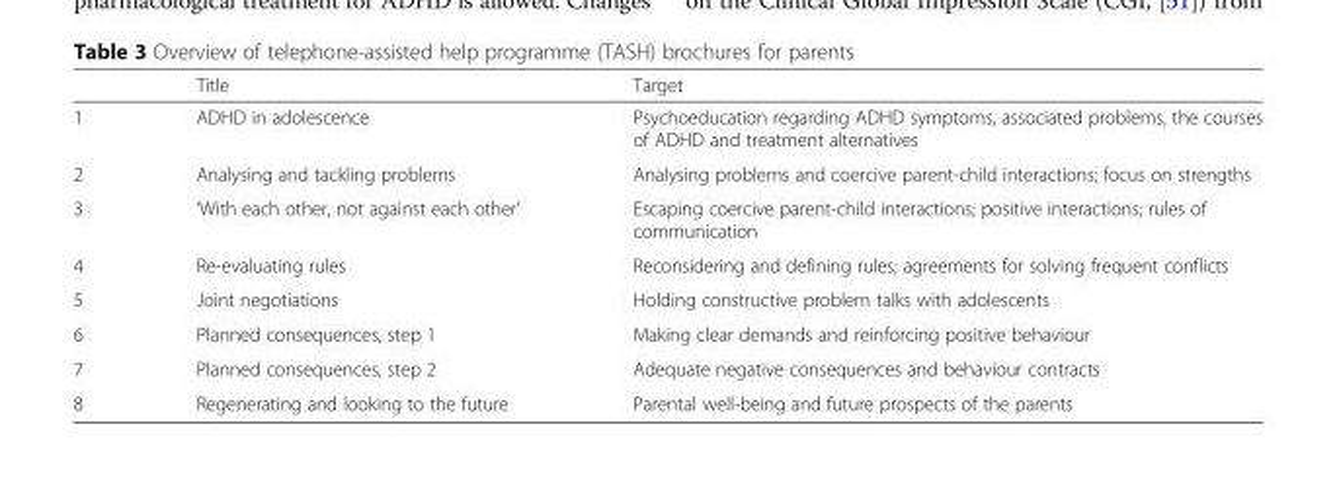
<table><thead><tr><td></td><td>Title</td><td>Target</td></tr></thead><tbody><tr><td>1</td><td>ADHD in adolescence</td><td>Psychoeducation regarding ADHD symptoms, associated problems, the courses of ADHD and treatment alternatives</td></tr><tr><td>2</td><td>Analysing and tackling problems</td><td>Analysing problems and coercive parent-child interactions; focus on strengths</td></tr><tr><td>3</td><td>‘With each other, not against each other’</td><td>Escaping coercive parent-child interactions; positive interactions; rules of communication</td></tr><tr><td>4</td><td>Re-evaluating rules</td><td>Reconsidering and defining rules; agreements for solving frequent conflicts</td></tr><tr><td>5</td><td>Joint negotiations</td><td>Holding constructive problem talks with adolescents</td></tr><tr><td>6</td><td>Planned consequences, step 1</td><td>Making clear demands and reinforcing positive behaviour</td></tr><tr><td>7</td><td>Planned consequences, step 2</td><td>Adequate negative consequences and behaviour contracts</td></tr><tr><td>8</td><td>Regenerating and looking to the future</td><td>Parental well-being and future prospects of the parents</td></tr></tbody></table>